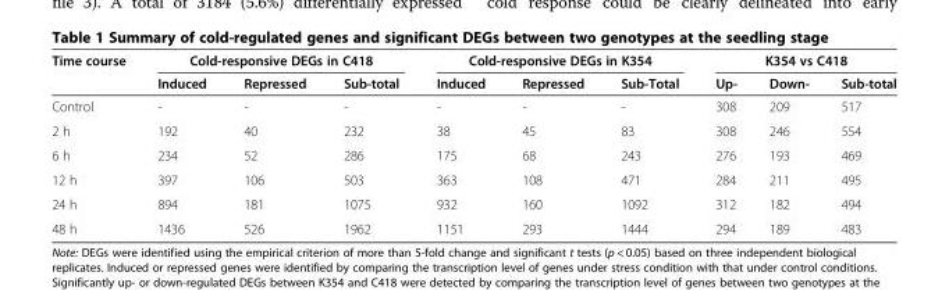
<table><thead><tr><td rowspan="2">Time course</td><td colspan="3">Cold-responsive DEGs in C418</td><td colspan="3">Cold-responsive DEGs in K354</td><td colspan="3">K354 vs C418</td></tr><tr><td>Induced</td><td>Repressed</td><td>Sub-total</td><td>Induced</td><td>Repressed</td><td>Sub-Total</td><td>Up-</td><td>Down-</td><td>Sub-total</td></tr></thead><tbody><tr><td>Control</td><td>-</td><td>-</td><td>-</td><td>-</td><td>-</td><td>-</td><td>308</td><td>209</td><td>517</td></tr><tr><td>2 h</td><td>192</td><td>40</td><td>232</td><td>38</td><td>45</td><td>83</td><td>308</td><td>246</td><td>554</td></tr><tr><td>6 h</td><td>234</td><td>52</td><td>286</td><td>175</td><td>68</td><td>243</td><td>276</td><td>193</td><td>469</td></tr><tr><td>12 h</td><td>397</td><td>106</td><td>503</td><td>363</td><td>108</td><td>471</td><td>284</td><td>211</td><td>495</td></tr><tr><td>24 h</td><td>894</td><td>181</td><td>1075</td><td>932</td><td>160</td><td>1092</td><td>312</td><td>182</td><td>494</td></tr><tr><td>48 h</td><td>1436</td><td>526</td><td>1962</td><td>1151</td><td>293</td><td>1444</td><td>294</td><td>189</td><td>483</td></tr></tbody></table>